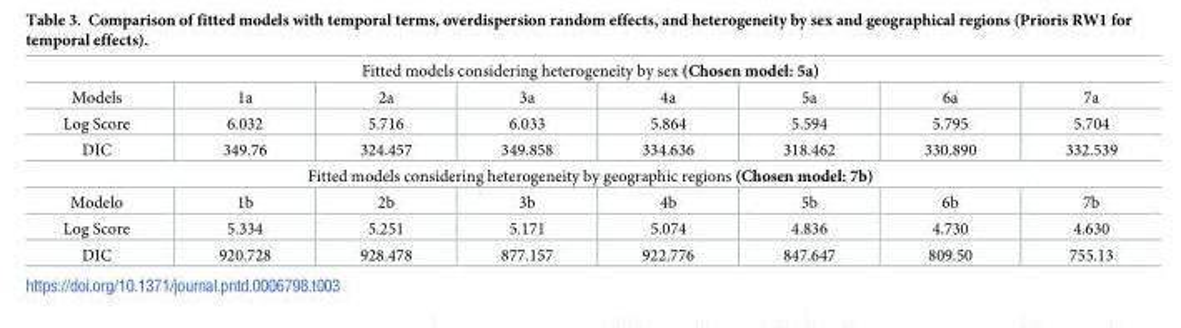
<table><tbody><tr><td colspan="8">Fitted models considering heterogeneity by sex (Chosen model: 5a)</td></tr><tr><td>Models</td><td>1a</td><td>2a</td><td>3a</td><td>4a</td><td>5a</td><td>6a</td><td>7a</td></tr><tr><td>Log Score</td><td>6.032</td><td>5.716</td><td>6.033</td><td>5.864</td><td>5.594</td><td>5.795</td><td>5.704</td></tr><tr><td>DIC</td><td>349.76</td><td>324.457</td><td>349.858</td><td>334.636</td><td>318.462</td><td>330.890</td><td>332.539</td></tr><tr><td colspan="8">Fitted models considering heterogeneity by geographic regions (Chosen model: 7b)</td></tr><tr><td>Modelo</td><td>1b</td><td>2b</td><td>3b</td><td>4b</td><td>5b</td><td>6b</td><td>7b</td></tr><tr><td>Log Score</td><td>5.334</td><td>5.251</td><td>5.171</td><td>5.074</td><td>4.836</td><td>4.730</td><td>4.630</td></tr><tr><td>DIC</td><td>920.728</td><td>928.478</td><td>877.157</td><td>922.776</td><td>847.647</td><td>809.50</td><td>755.13</td></tr></tbody></table>